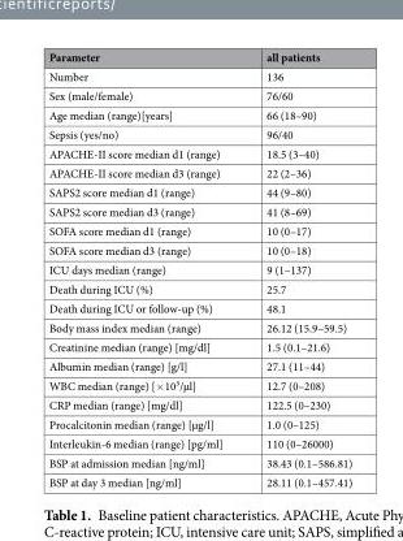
<table><thead><tr><td>Parameter</td><td>all patients</td></tr></thead><tbody><tr><td>Number</td><td>136</td></tr><tr><td>Sex (male/female)</td><td>76/60</td></tr><tr><td>Age median (range)[years]</td><td>66 (18–90)</td></tr><tr><td>Sepsis (yes/no)</td><td>96/40</td></tr><tr><td>APACHE-II score median d1 (range)</td><td>18.5 (3–40)</td></tr><tr><td>APACHE-II score median d3 (range)</td><td>22 (2–36)</td></tr><tr><td>SAPS2 score median d1 (range)</td><td>44 (9–80)</td></tr><tr><td>SAPS2 score median d3 (range)</td><td>41 (8–69)</td></tr><tr><td>SOFA score median d1 (range)</td><td>10 (0–17)</td></tr><tr><td>SOFA score median d3 (range)</td><td>10 (0–18)</td></tr><tr><td>ICU days median (range)</td><td>9 (1–137)</td></tr><tr><td>Death during ICU (%)</td><td>25.7</td></tr><tr><td>Death during ICU or follow-up (%)</td><td>48.1</td></tr><tr><td>Body mass index median (range)</td><td>26.12 (15.9–59.5)</td></tr><tr><td>Creatinine median (range) [mg/dl]</td><td>1.5 (0.1–21.6)</td></tr><tr><td>Albumin median (range) [g/l]</td><td>27.1 (11–44)</td></tr><tr><td>WBC median (range) [×10³/µl]</td><td>12.7 (0–208)</td></tr><tr><td>CRP median (range) [mg/dl]</td><td>122.5 (0–230)</td></tr><tr><td>Procalcitonin median (range) [µg/l]</td><td>1.0 (0–125)</td></tr><tr><td>Interleukin-6 median (range) [pg/ml]</td><td>110 (0–26000)</td></tr><tr><td>BSP at admission median [ng/ml]</td><td>38.43 (0.1–586.81)</td></tr><tr><td>BSP at day 3 median [ng/ml]</td><td>28.11 (0.1–457.41)</td></tr></tbody></table>